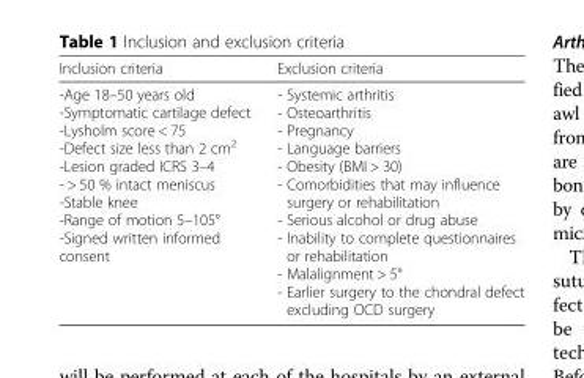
<table><thead><tr><td>Inclusion criteria</td><td>Exclusion criteria</td></tr></thead><tbody><tr><td>-Age 18–50 years old -Symptomatic cartilage defect -Lysholm score &lt; 75 -Defect size less than 2 cm<sup>2</sup> -Lesion graded ICRS 3–4 - &gt; 50 % intact meniscus -Stable knee -Range of motion 5–105° -Signed written informed consent</td><td>- Systemic arthritis - Osteoarthritis - Pregnancy - Language barriers - Obesity (BMI &gt; 30) - Comorbidities that may influence surgery or rehabilitation - Serious alcohol or drug abuse - Inability to complete questionnaires or rehabilitation - Malalignment &gt; 5° - Earlier surgery to the chondral defect excluding OCD surgery</td></tr></tbody></table>